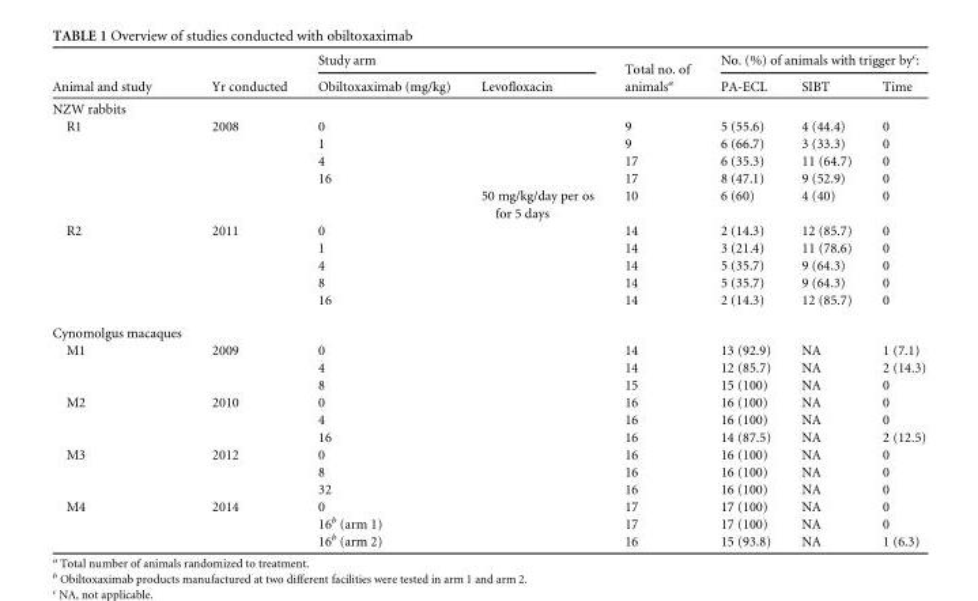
<table><thead><tr><td rowspan="2">Animal and study</td><td rowspan="2">Yr conducted</td><td colspan="2">Study arm</td><td rowspan="2">Total no. of animals<sup>a</sup></td><td colspan="3">No. (%) of animals with trigger by<sup>c</sup>:</td></tr><tr><td>Obiltoxaximab (mg/kg)</td><td>Levofloxacin</td><td>PA-ECL</td><td>SIBT</td><td>Time</td></tr></thead><tbody><tr><td colspan="8">NZW rabbits</td></tr><tr><td rowspan="5">R1</td><td>2008</td><td>0</td><td></td><td>9</td><td>5 (55.6)</td><td>4 (44.4)</td><td>0</td></tr><tr><td></td><td>1</td><td></td><td>9</td><td>6 (66.7)</td><td>3 (33.3)</td><td>0</td></tr><tr><td></td><td>4</td><td></td><td>17</td><td>6 (35.3)</td><td>11 (64.7)</td><td>0</td></tr><tr><td></td><td>16</td><td></td><td>17</td><td>8 (47.1)</td><td>9 (52.9)</td><td>0</td></tr><tr><td></td><td></td><td>50 mg/kg/day per os for 5 days</td><td>10</td><td>6 (60)</td><td>4 (40)</td><td>0</td></tr><tr><td rowspan="5">R2</td><td>2011</td><td>0</td><td></td><td>14</td><td>2 (14.3)</td><td>12 (85.7)</td><td>0</td></tr><tr><td></td><td>1</td><td></td><td>14</td><td>3 (21.4)</td><td>11 (78.6)</td><td>0</td></tr><tr><td></td><td>4</td><td></td><td>14</td><td>5 (35.7)</td><td>9 (64.3)</td><td>0</td></tr><tr><td></td><td>8</td><td></td><td>14</td><td>5 (35.7)</td><td>9 (64.3)</td><td>0</td></tr><tr><td></td><td>16</td><td></td><td>14</td><td>2 (14.3)</td><td>12 (85.7)</td><td>0</td></tr><tr><td colspan="8">Cynomolgus macaques</td></tr><tr><td rowspan="3">M1</td><td>2009</td><td>0</td><td></td><td>14</td><td>13 (92.9)</td><td>NA</td><td>1 (7.1)</td></tr><tr><td></td><td>4</td><td></td><td>14</td><td>12 (85.7)</td><td>NA</td><td>2 (14.3)</td></tr><tr><td></td><td>8</td><td></td><td>15</td><td>15 (100)</td><td>NA</td><td>0</td></tr><tr><td rowspan="3">M2</td><td>2010</td><td>0</td><td></td><td>16</td><td>16 (100)</td><td>NA</td><td>0</td></tr><tr><td></td><td>4</td><td></td><td>16</td><td>16 (100)</td><td>NA</td><td>0</td></tr><tr><td></td><td>16</td><td></td><td>16</td><td>14 (87.5)</td><td>NA</td><td>2 (12.5)</td></tr><tr><td rowspan="3">M3</td><td>2012</td><td>0</td><td></td><td>16</td><td>16 (100)</td><td>NA</td><td>0</td></tr><tr><td></td><td>8</td><td></td><td>16</td><td>16 (100)</td><td>NA</td><td>0</td></tr><tr><td></td><td>32</td><td></td><td>16</td><td>16 (100)</td><td>NA</td><td>0</td></tr><tr><td rowspan="3">M4</td><td>2014</td><td>0</td><td></td><td>17</td><td>17 (100)</td><td>NA</td><td>0</td></tr><tr><td></td><td>16<sup>b</sup> (arm 1)</td><td></td><td>17</td><td>17 (100)</td><td>NA</td><td>0</td></tr><tr><td></td><td>16<sup>b</sup> (arm 2)</td><td></td><td>16</td><td>15 (93.8)</td><td>NA</td><td>1 (6.3)</td></tr></tbody></table>